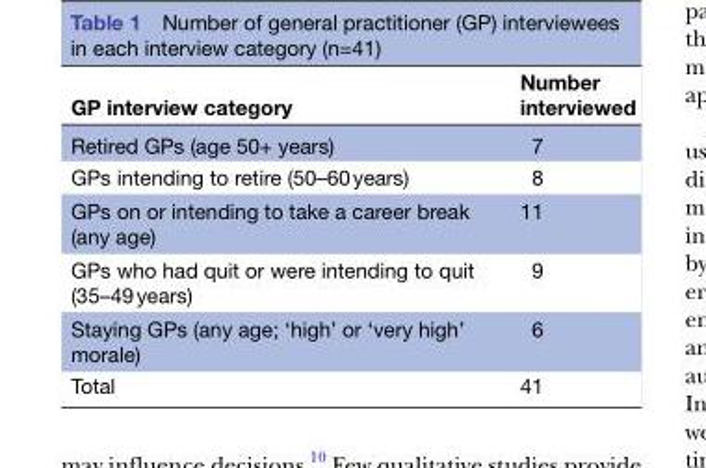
<table><thead><tr><td>GP interview category</td><td>Number interviewed</td></tr></thead><tbody><tr><td>Retired GPs (age 50+ years)</td><td>7</td></tr><tr><td>GPs intending to retire (50–60 years)</td><td>8</td></tr><tr><td>GPs on or intending to take a career break (any age)</td><td>11</td></tr><tr><td>GPs who had quit or were intending to quit (35–49 years)</td><td>9</td></tr><tr><td>Staying GPs (any age; ‘high’ or ‘very high’ morale)</td><td>6</td></tr><tr><td>Total</td><td>41</td></tr></tbody></table>